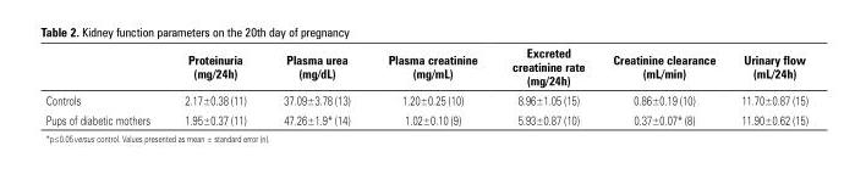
<table><thead><tr><td></td><td>Proteinuria (mg/24h)</td><td>Plasma urea (mg/dL)</td><td>Plasma creatinine (mg/mL)</td><td>Excreted creatinine rate (mg/24h)</td><td>Creatinine clearance (mL/min)</td><td>Urinary flow (mL/24h)</td></tr></thead><tbody><tr><td>Controls</td><td>2.17±0.38 (11)</td><td>37.09±3.78 (13)</td><td>1.20±0.25 (10)</td><td>8.96±1.05 (15)</td><td>0.86±0.19 (10)</td><td>11.70±0.87 (15)</td></tr><tr><td>Pups of diabetic mothers</td><td>1.95±0.37 (11)</td><td>47.26±1.9* (14)</td><td>1.02±0.10 (9)</td><td>5.93±0.87 (10)</td><td>0.37±0.07* (8)</td><td>11.90±0.62 (15)</td></tr></tbody></table>